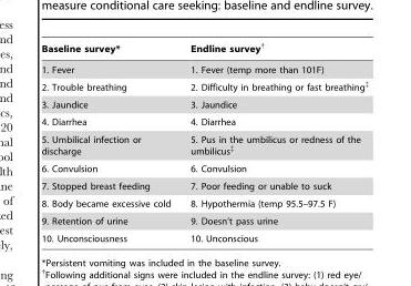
<table><thead><tr><td>Baseline survey*</td><td>Endline survey†</td></tr></thead><tbody><tr><td>1. Fever</td><td>1. Fever (temp more than 101F)</td></tr><tr><td>2. Trouble breathing</td><td>2. Difficulty in breathing or fast breathing‡</td></tr><tr><td>3. Jaundice</td><td>3. Jaundice</td></tr><tr><td>4. Diarrhea</td><td>4. Diarrhea</td></tr><tr><td>5. Umbilical infection or discharge</td><td>5. Pus in the umbilicus or redness of the umbilicus‡</td></tr><tr><td>6. Convulsion</td><td>6. Convulsion</td></tr><tr><td>7. Stopped breast feeding</td><td>7. Poor feeding or unable to suck</td></tr><tr><td>8. Body became excessive cold</td><td>8. Hypothermia (temp 95.5–97.5 F)</td></tr><tr><td>9. Retention of urine</td><td>9. Doesn’t pass urine</td></tr><tr><td>10. Unconsciousness</td><td>10. Unconscious</td></tr></tbody></table>